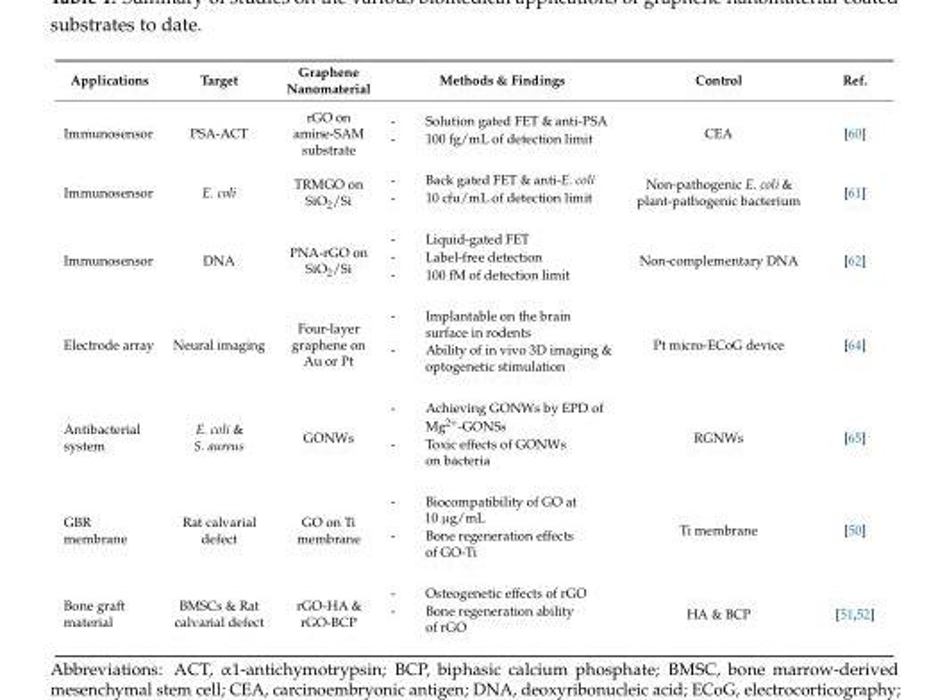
<table><thead><tr><td>Applications</td><td>Target</td><td>Graphene Nanomaterial</td><td>Methods &amp; Findings</td><td>Control</td><td>Ref.</td></tr></thead><tbody><tr><td>Immunosensor</td><td>PSA-ACT</td><td>rGO on amine-SAM substrate</td><td>- Solution gated FET &amp; anti-PSA - 100 fg/mL of detection limit</td><td>CEA</td><td>[60]</td></tr><tr><td>Immunosensor</td><td>E. coli</td><td>TRMGO on SiO<sub>2</sub>/Si</td><td>- Back gated FET &amp; anti-E. coli - 10 cfu/mL of detection limit</td><td>Non-pathogenic E. coli &amp; plant-pathogenic bacterium</td><td>[61]</td></tr><tr><td>Immunosensor</td><td>DNA</td><td>PNA-rGO on SiO<sub>2</sub>/Si</td><td>- Liquid-gated FET - Label-free detection - 100 fM of detection limit</td><td>Non-complementary DNA</td><td>[62]</td></tr><tr><td>Electrode array</td><td>Neural imaging</td><td>Four-layer graphene on Au or Pt</td><td>- Implantable on the brain surface in rodents - Ability of in vivo 3D imaging &amp; optogenetic stimulation</td><td>Pt micro-ECoG device</td><td>[64]</td></tr><tr><td>Antibacterial system</td><td>E. coli &amp; S. aureus</td><td>GONWs</td><td>- Achieving GONWs by EPD of Mg<sup>2+</sup>-GONSs - Toxic effects of GONWs on bacteria</td><td>RGNWs</td><td>[65]</td></tr><tr><td>GBR membrane</td><td>Rat calvarial defect</td><td>GO on Ti membrane</td><td>- Biocompatibility of GO at 10 µg/mL - Bone regeneration effects of GO-Ti</td><td>Ti membrane</td><td>[50]</td></tr><tr><td>Bone graft material</td><td>BMSCs &amp; Rat calvarial defect</td><td>rGO-HA &amp; rGO-BCP</td><td>- Osteogenetic effects of rGO - Bone regeneration ability of rGO</td><td>HA &amp; BCP</td><td>[51,52]</td></tr></tbody></table>